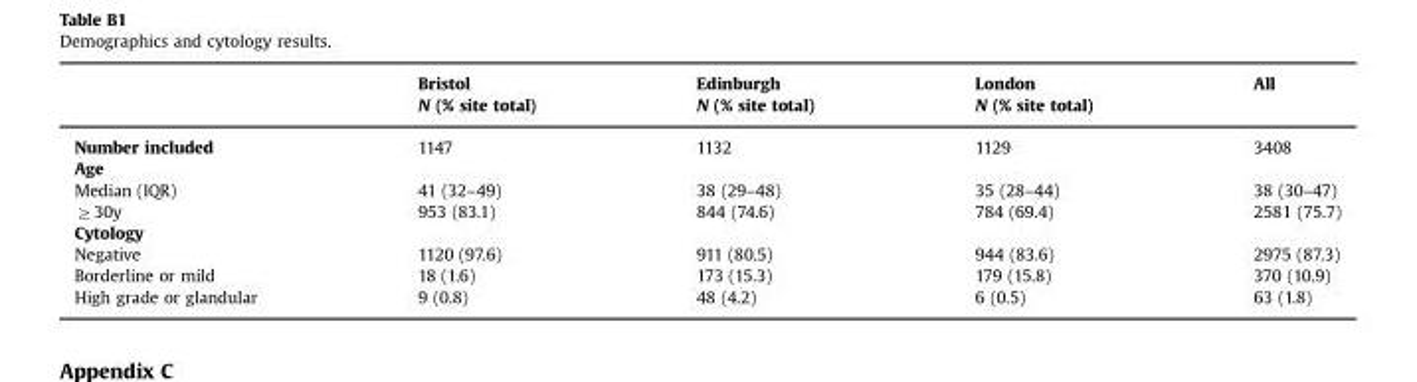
<table><thead><tr><td rowspan="2"></td><td rowspan="2">Bristol N (% site total)</td><td rowspan="2">Edinburgh N (% site total)</td><td rowspan="2">London N (% site total)</td><td rowspan="2">All</td></tr><tr></tr></thead><tbody><tr><td>Number included</td><td>1147</td><td>1132</td><td>1129</td><td>3408</td></tr><tr><td colspan="5">Age</td></tr><tr><td>Median (IQR)</td><td>41 (32–49)</td><td>38 (29–48)</td><td>35 (28–44)</td><td>38 (30–47)</td></tr><tr><td>≥30y</td><td>953 (83.1)</td><td>844 (74.6)</td><td>784 (69.4)</td><td>2581 (75.7)</td></tr><tr><td colspan="5">Cytology</td></tr><tr><td>Negative</td><td>1120 (97.6)</td><td>911 (80.5)</td><td>944 (83.6)</td><td>2975 (87.3)</td></tr><tr><td>Borderline or mild</td><td>18 (1.6)</td><td>173 (15.3)</td><td>179 (15.8)</td><td>370 (10.9)</td></tr><tr><td>High grade or glandular</td><td>9 (0.8)</td><td>48 (4.2)</td><td>6 (0.5)</td><td>63 (1.8)</td></tr></tbody></table>